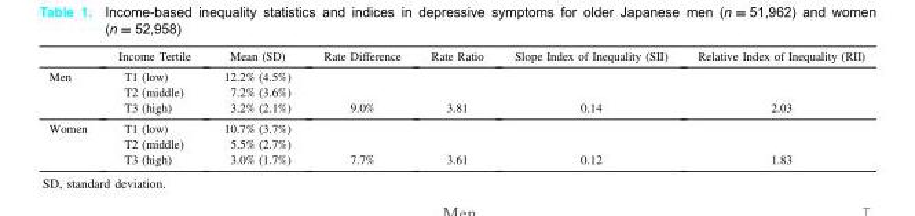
<table><thead><tr><td></td><td>Income Tertile</td><td>Mean (SD)</td><td>Rate Difference</td><td>Rate Ratio</td><td>Slope Index of Inequality (SII)</td><td>Relative Index of Inequality (RII)</td></tr></thead><tbody><tr><td rowspan="3">Men</td><td>T1 (low)</td><td>12.2% (4.5%)</td><td></td><td></td><td></td><td></td></tr><tr><td>T2 (middle)</td><td>7.2% (3.6%)</td><td></td><td></td><td></td><td></td></tr><tr><td>T3 (high)</td><td>3.2% (2.1%)</td><td>9.0%</td><td>3.81</td><td>0.14</td><td>2.03</td></tr><tr><td rowspan="3">Women</td><td>T1 (low)</td><td>10.7% (3.7%)</td><td></td><td></td><td></td><td></td></tr><tr><td>T2 (middle)</td><td>5.5% (2.7%)</td><td></td><td></td><td></td><td></td></tr><tr><td>T3 (high)</td><td>3.0% (1.7%)</td><td>7.7%</td><td>3.61</td><td>0.12</td><td>1.83</td></tr></tbody></table>